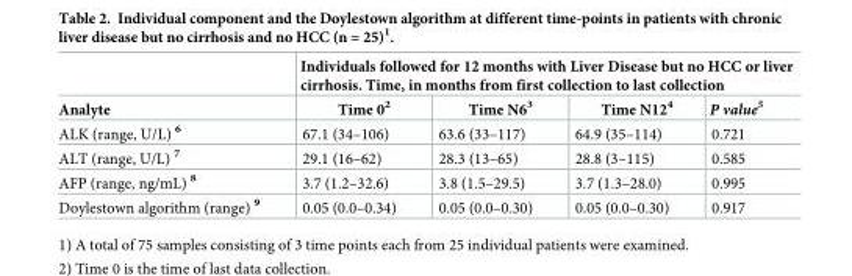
<table><thead><tr><td rowspan="2">Analyte</td><td colspan="4">Individuals followed for 12 months with Liver Disease but no HCC or liver cirrhosis. Time, in months from first collection to last collection</td></tr><tr><td>Time 0<sup>2</sup></td><td>Time N6<sup>3</sup></td><td>Time N12<sup>4</sup></td><td>P value<sup>5</sup></td></tr></thead><tbody><tr><td>ALK (range, U/L) <sup>6</sup></td><td>67.1 (34–106)</td><td>63.6 (33–117)</td><td>64.9 (35–114)</td><td>0.721</td></tr><tr><td>ALT (range, U/L) <sup>7</sup></td><td>29.1 (16–62)</td><td>28.3 (13–65)</td><td>28.8 (3–115)</td><td>0.585</td></tr><tr><td>AFP (range, ng/mL) <sup>8</sup></td><td>3.7 (1.2–32.6)</td><td>3.8 (1.5–29.5)</td><td>3.7 (1.3–28.0)</td><td>0.995</td></tr><tr><td>Doylestown algorithm (range) <sup>9</sup></td><td>0.05 (0.0–0.34)</td><td>0.05 (0.0–0.30)</td><td>0.05 (0.0–0.30)</td><td>0.917</td></tr></tbody></table>